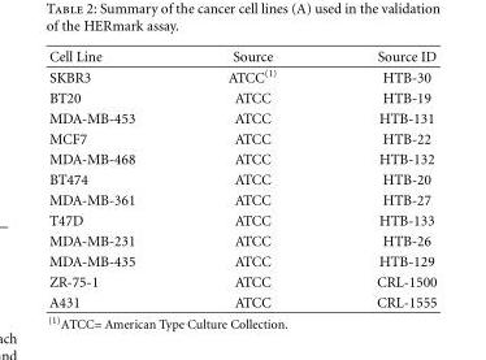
<table><thead><tr><td>Cell Line</td><td>Source</td><td>Source ID</td></tr></thead><tbody><tr><td>SKBR3</td><td>ATCC<sup>(1)</sup></td><td>HTB-30</td></tr><tr><td>BT20</td><td>ATCC</td><td>HTB-19</td></tr><tr><td>MDA-MB-453</td><td>ATCC</td><td>HTB-131</td></tr><tr><td>MCF7</td><td>ATCC</td><td>HTB-22</td></tr><tr><td>MDA-MB-468</td><td>ATCC</td><td>HTB-132</td></tr><tr><td>BT474</td><td>ATCC</td><td>HTB-20</td></tr><tr><td>MDA-MB-361</td><td>ATCC</td><td>HTB-27</td></tr><tr><td>T47D</td><td>ATCC</td><td>HTB-133</td></tr><tr><td>MDA-MB-231</td><td>ATCC</td><td>HTB-26</td></tr><tr><td>MDA-MB-435</td><td>ATCC</td><td>HTB-129</td></tr><tr><td>ZR-75-1</td><td>ATCC</td><td>CRL-1500</td></tr><tr><td>A431</td><td>ATCC</td><td>CRL-1555</td></tr></tbody></table>